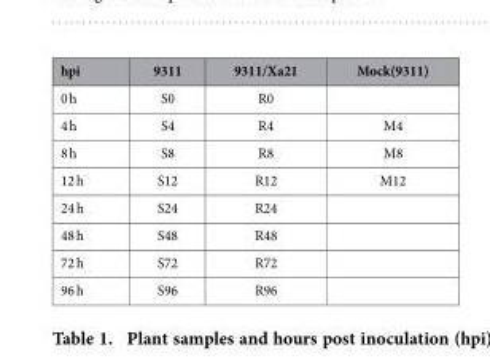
<table><thead><tr><td>hpi</td><td>9311</td><td>9311/Xa21</td><td>Mock(9311)</td></tr></thead><tbody><tr><td>0 h</td><td>S0</td><td>R0</td><td></td></tr><tr><td>4 h</td><td>S4</td><td>R4</td><td>M4</td></tr><tr><td>8 h</td><td>S8</td><td>R8</td><td>M8</td></tr><tr><td>12 h</td><td>S12</td><td>R12</td><td>M12</td></tr><tr><td>24 h</td><td>S24</td><td>R24</td><td></td></tr><tr><td>48 h</td><td>S48</td><td>R48</td><td></td></tr><tr><td>72 h</td><td>S72</td><td>R72</td><td></td></tr><tr><td>96 h</td><td>S96</td><td>R96</td><td></td></tr></tbody></table>